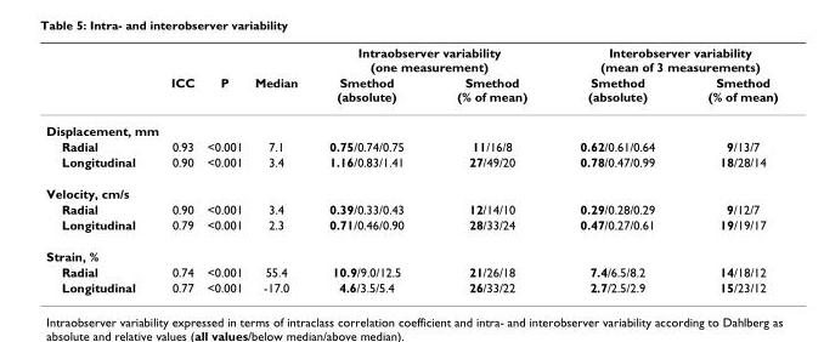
<table><thead><tr><td rowspan="2"></td><td rowspan="2">ICC</td><td rowspan="2">P</td><td rowspan="2">Median</td><td colspan="2">Intraobserver variability (one measurement)</td><td colspan="2">Interobserver variability (mean of 3 measurements)</td></tr><tr><td>Smethod (absolute)</td><td>Smethod (% of mean)</td><td>Smethod (absolute)</td><td>Smethod (% of mean)</td></tr></thead><tbody><tr><td colspan="8">Displacement, mm</td></tr><tr><td>Radial</td><td>0.93</td><td>&lt;0.001</td><td>7.1</td><td>0.75/0.74/0.75</td><td>11/16/8</td><td>0.62/0.61/0.64</td><td>9/13/7</td></tr><tr><td>Longitudinal</td><td>0.90</td><td>&lt;0.001</td><td>3.4</td><td>1.16/0.83/1.41</td><td>27/49/20</td><td>0.78/0.47/0.99</td><td>18/28/14</td></tr><tr><td colspan="8">Velocity, cm/s</td></tr><tr><td>Radial</td><td>0.90</td><td>&lt;0.001</td><td>3.4</td><td>0.39/0.33/0.43</td><td>12/14/10</td><td>0.29/0.28/0.29</td><td>9/12/7</td></tr><tr><td>Longitudinal</td><td>0.79</td><td>&lt;0.001</td><td>2.3</td><td>0.71/0.46/0.90</td><td>28/33/24</td><td>0.47/0.27/0.61</td><td>19/19/17</td></tr><tr><td colspan="8">Strain, %</td></tr><tr><td>Radial</td><td>0.74</td><td>&lt;0.001</td><td>55.4</td><td>10.9/9.0/12.5</td><td>21/26/18</td><td>7.4/6.5/8.2</td><td>14/18/12</td></tr><tr><td>Longitudinal</td><td>0.77</td><td>&lt;0.001</td><td>-17.0</td><td>4.6/3.5/5.4</td><td>26/33/22</td><td>2.7/2.5/2.9</td><td>15/23/12</td></tr></tbody></table>